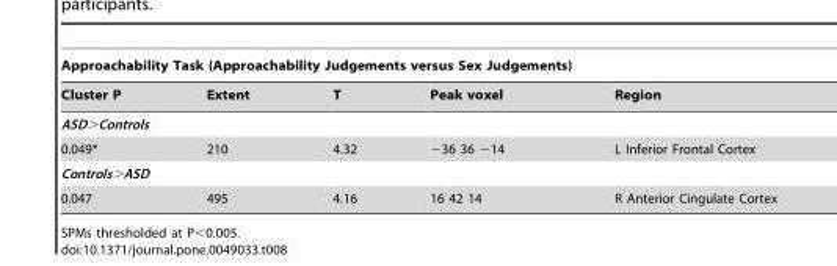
<table><thead><tr><td colspan="5">Approachability Task (Approachability Judgements versus Sex Judgements)</td></tr><tr><td>Cluster P</td><td>Extent</td><td>T</td><td>Peak voxel</td><td>Region</td></tr></thead><tbody><tr><td colspan="5">ASD&gt;Controls</td></tr><tr><td>0.049*</td><td>210</td><td>4.32</td><td>−36 36 −14</td><td>L Inferior Frontal Cortex</td></tr><tr><td colspan="5">Controls&gt;ASD</td></tr><tr><td>0.047</td><td>495</td><td>4.16</td><td>16 42 14</td><td>R Anterior Cingulate Cortex</td></tr></tbody></table>